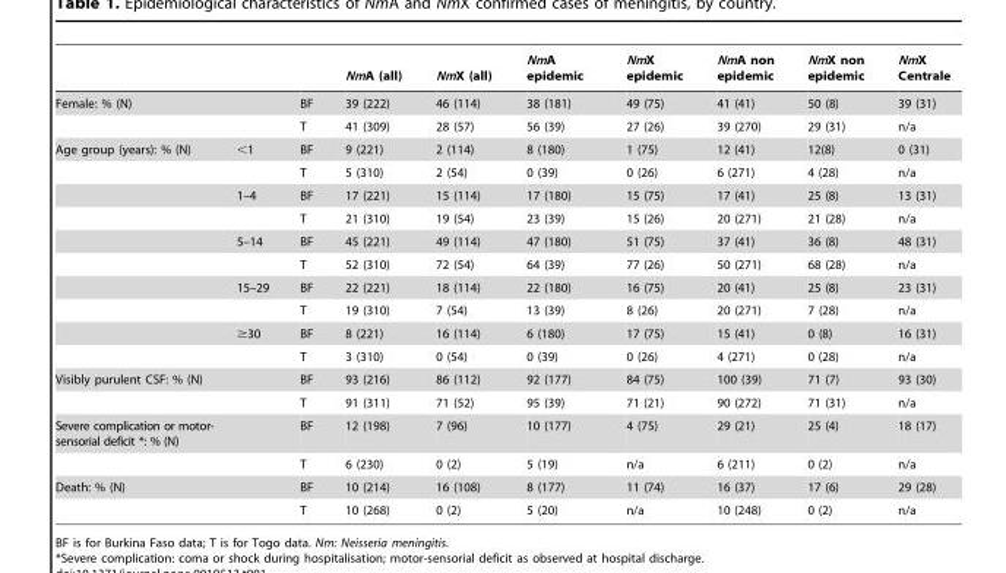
<table><thead><tr><td></td><td></td><td></td><td>NmA (all)</td><td>NmX (all)</td><td>NmA epidemic</td><td>NmX epidemic</td><td>NmA non epidemic</td><td>NmX non epidemic</td><td>NmX Centrale</td></tr></thead><tbody><tr><td rowspan="2">Female: % (N)</td><td></td><td>BF</td><td>39 (222)</td><td>46 (114)</td><td>38 (181)</td><td>49 (75)</td><td>41 (41)</td><td>50 (8)</td><td>39 (31)</td></tr><tr><td></td><td>T</td><td>41 (309)</td><td>28 (57)</td><td>56 (39)</td><td>27 (26)</td><td>39 (270)</td><td>29 (31)</td><td>n/a</td></tr><tr><td rowspan="10">Age group (years): % (N)</td><td>&lt;1</td><td>BF</td><td>9 (221)</td><td>2 (114)</td><td>8 (180)</td><td>1 (75)</td><td>12 (41)</td><td>12(8)</td><td>0 (31)</td></tr><tr><td></td><td>T</td><td>5 (310)</td><td>2 (54)</td><td>0 (39)</td><td>0 (26)</td><td>6 (271)</td><td>4 (28)</td><td>n/a</td></tr><tr><td>1–4</td><td>BF</td><td>17 (221)</td><td>15 (114)</td><td>17 (180)</td><td>15 (75)</td><td>17 (41)</td><td>25 (8)</td><td>13 (31)</td></tr><tr><td></td><td>T</td><td>21 (310)</td><td>19 (54)</td><td>23 (39)</td><td>15 (26)</td><td>20 (271)</td><td>21 (28)</td><td>n/a</td></tr><tr><td>5–14</td><td>BF</td><td>45 (221)</td><td>49 (114)</td><td>47 (180)</td><td>51 (75)</td><td>37 (41)</td><td>36 (8)</td><td>48 (31)</td></tr><tr><td></td><td>T</td><td>52 (310)</td><td>72 (54)</td><td>64 (39)</td><td>77 (26)</td><td>50 (271)</td><td>68 (28)</td><td>n/a</td></tr><tr><td>15–29</td><td>BF</td><td>22 (221)</td><td>18 (114)</td><td>22 (180)</td><td>16 (75)</td><td>20 (41)</td><td>25 (8)</td><td>23 (31)</td></tr><tr><td></td><td>T</td><td>19 (310)</td><td>7 (54)</td><td>13 (39)</td><td>8 (26)</td><td>20 (271)</td><td>7 (28)</td><td>n/a</td></tr><tr><td>≥30</td><td>BF</td><td>8 (221)</td><td>16 (114)</td><td>6 (180)</td><td>17 (75)</td><td>15 (41)</td><td>0 (8)</td><td>16 (31)</td></tr><tr><td></td><td>T</td><td>3 (310)</td><td>0 (54)</td><td>0 (39)</td><td>0 (26)</td><td>4 (271)</td><td>0 (28)</td><td>n/a</td></tr><tr><td rowspan="2">Visibly purulent CSF: % (N)</td><td></td><td>BF</td><td>93 (216)</td><td>86 (112)</td><td>92 (177)</td><td>84 (75)</td><td>100 (39)</td><td>71 (7)</td><td>93 (30)</td></tr><tr><td></td><td>T</td><td>91 (311)</td><td>71 (52)</td><td>95 (39)</td><td>71 (21)</td><td>90 (272)</td><td>71 (31)</td><td>n/a</td></tr><tr><td rowspan="2">Severe complication or motor- sensorial deficit *: % (N)</td><td></td><td>BF</td><td>12 (198)</td><td>7 (96)</td><td>10 (177)</td><td>4 (75)</td><td>29 (21)</td><td>25 (4)</td><td>18 (17)</td></tr><tr><td></td><td>T</td><td>6 (230)</td><td>0 (2)</td><td>5 (19)</td><td>n/a</td><td>6 (211)</td><td>0 (2)</td><td>n/a</td></tr><tr><td rowspan="2">Death: % (N)</td><td></td><td>BF</td><td>10 (214)</td><td>16 (108)</td><td>8 (177)</td><td>11 (74)</td><td>16 (37)</td><td>17 (6)</td><td>29 (28)</td></tr><tr><td></td><td>T</td><td>10 (268)</td><td>0 (2)</td><td>5 (20)</td><td>n/a</td><td>10 (248)</td><td>0 (2)</td><td>n/a</td></tr></tbody></table>